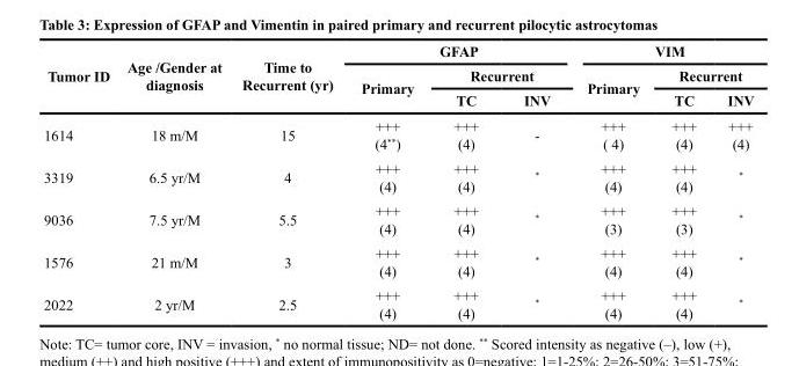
<table><thead><tr><td rowspan="3">Tumor ID</td><td rowspan="3">Age /Gender at diagnosis</td><td rowspan="3">Time to Recurrent (yr)</td><td colspan="3">GFAP</td><td colspan="3">VIM</td></tr><tr><td rowspan="2">Primary</td><td colspan="2">Recurrent</td><td rowspan="2">Primary</td><td colspan="2">Recurrent</td></tr><tr><td>TC</td><td>INV</td><td>TC</td><td>INV</td></tr></thead><tbody><tr><td>1614</td><td>18 m/M</td><td>15</td><td>+++ (4**)</td><td>+++ (4)</td><td>-</td><td>+++ ( 4)</td><td>+++ (4)</td><td>+++ (4)</td></tr><tr><td>3319</td><td>6.5 yr/M</td><td>4</td><td>+++ (4)</td><td>+++ (4)</td><td>*</td><td>+++ (4)</td><td>+++ (4)</td><td>*</td></tr><tr><td>9036</td><td>7.5 yr/M</td><td>5.5</td><td>+++ (4)</td><td>+++ (4)</td><td>*</td><td>+++ (3)</td><td>+++ (3)</td><td>*</td></tr><tr><td>1576</td><td>21 m/M</td><td>3</td><td>+++ (4)</td><td>+++ (4)</td><td>*</td><td>+++ (4)</td><td>+++ (4)</td><td>*</td></tr><tr><td>2022</td><td>2 yr/M</td><td>2.5</td><td>+++ (4)</td><td>+++ (4)</td><td>*</td><td>+++ (4)</td><td>+++ (4)</td><td>*</td></tr></tbody></table>